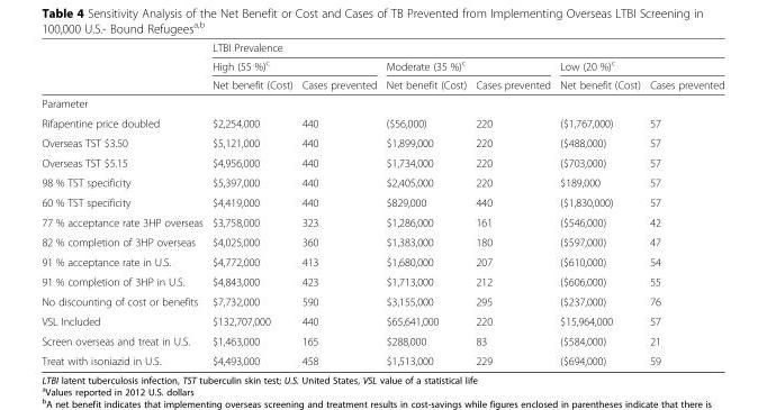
<table><thead><tr><td rowspan="3"></td><td colspan="6">LTBI Prevalence</td></tr><tr><td colspan="2">High (55 %)<sup>c</sup></td><td colspan="2">Moderate (35 %)<sup>c</sup></td><td colspan="2">Low (20 %)<sup>c</sup></td></tr><tr><td>Net benefit (Cost)</td><td>Cases prevented</td><td>Net benefit (Cost)</td><td>Cases prevented</td><td>Net benefit (Cost)</td><td>Cases prevented</td></tr></thead><tbody><tr><td colspan="7">Parameter</td></tr><tr><td>Rifapentine price doubled</td><td>$2,254,000</td><td>440</td><td>($56,000)</td><td>220</td><td>($1,767,000)</td><td>57</td></tr><tr><td>Overseas TST $3.50</td><td>$5,121,000</td><td>440</td><td>$1,899,000</td><td>220</td><td>($488,000)</td><td>57</td></tr><tr><td>Overseas TST $5.15</td><td>$4,956,000</td><td>440</td><td>$1,734,000</td><td>220</td><td>($703,000)</td><td>57</td></tr><tr><td>98 % TST specificity</td><td>$5,397,000</td><td>440</td><td>$2,405,000</td><td>220</td><td>$189,000</td><td>57</td></tr><tr><td>60 % TST specificity</td><td>$4,419,000</td><td>440</td><td>$829,000</td><td>440</td><td>($1,830,000)</td><td>57</td></tr><tr><td>77 % acceptance rate 3HP overseas</td><td>$3,758,000</td><td>323</td><td>$1,286,000</td><td>161</td><td>($546,000)</td><td>42</td></tr><tr><td>82 % completion of 3HP overseas</td><td>$4,025,000</td><td>360</td><td>$1,383,000</td><td>180</td><td>($597,000)</td><td>47</td></tr><tr><td>91 % acceptance rate in U.S.</td><td>$4,772,000</td><td>413</td><td>$1,680,000</td><td>207</td><td>($610,000)</td><td>54</td></tr><tr><td>91 % completion of 3HP in U.S.</td><td>$4,843,000</td><td>423</td><td>$1,713,000</td><td>212</td><td>($606,000)</td><td>55</td></tr><tr><td>No discounting of cost or benefits</td><td>$7,732,000</td><td>590</td><td>$3,155,000</td><td>295</td><td>($237,000)</td><td>76</td></tr><tr><td>VSL Included</td><td>$132,707,000</td><td>440</td><td>$65,641,000</td><td>220</td><td>$15,964,000</td><td>57</td></tr><tr><td>Screen overseas and treat in U.S.</td><td>$1,463,000</td><td>165</td><td>$288,000</td><td>83</td><td>($584,000)</td><td>21</td></tr><tr><td>Treat with isoniazid in U.S.</td><td>$4,493,000</td><td>458</td><td>$1,513,000</td><td>229</td><td>($694,000)</td><td>59</td></tr></tbody></table>